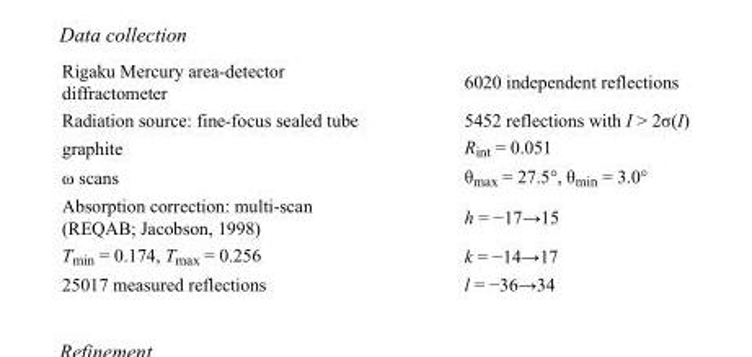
<table><tbody><tr><td>Rigaku Mercury area-detector diffractometer</td><td>6020 independent reflections</td></tr><tr><td>Radiation source: fine-focus sealed tube</td><td>5452 reflections with I &gt; 2σ(I)</td></tr><tr><td>graphite</td><td>R<sub>int</sub> = 0.051</td></tr><tr><td>ω scans</td><td>θ<sub>max</sub> = 27.5°, θ<sub>min</sub> = 3.0°</td></tr><tr><td>Absorption correction: multi-scan (REQAB; Jacobson, 1998)</td><td>h = −17→15</td></tr><tr><td>T<sub>min</sub> = 0.174, T<sub>max</sub> = 0.256</td><td>k = −14→17</td></tr><tr><td>25017 measured reflections</td><td>l = −36→34</td></tr></tbody></table>